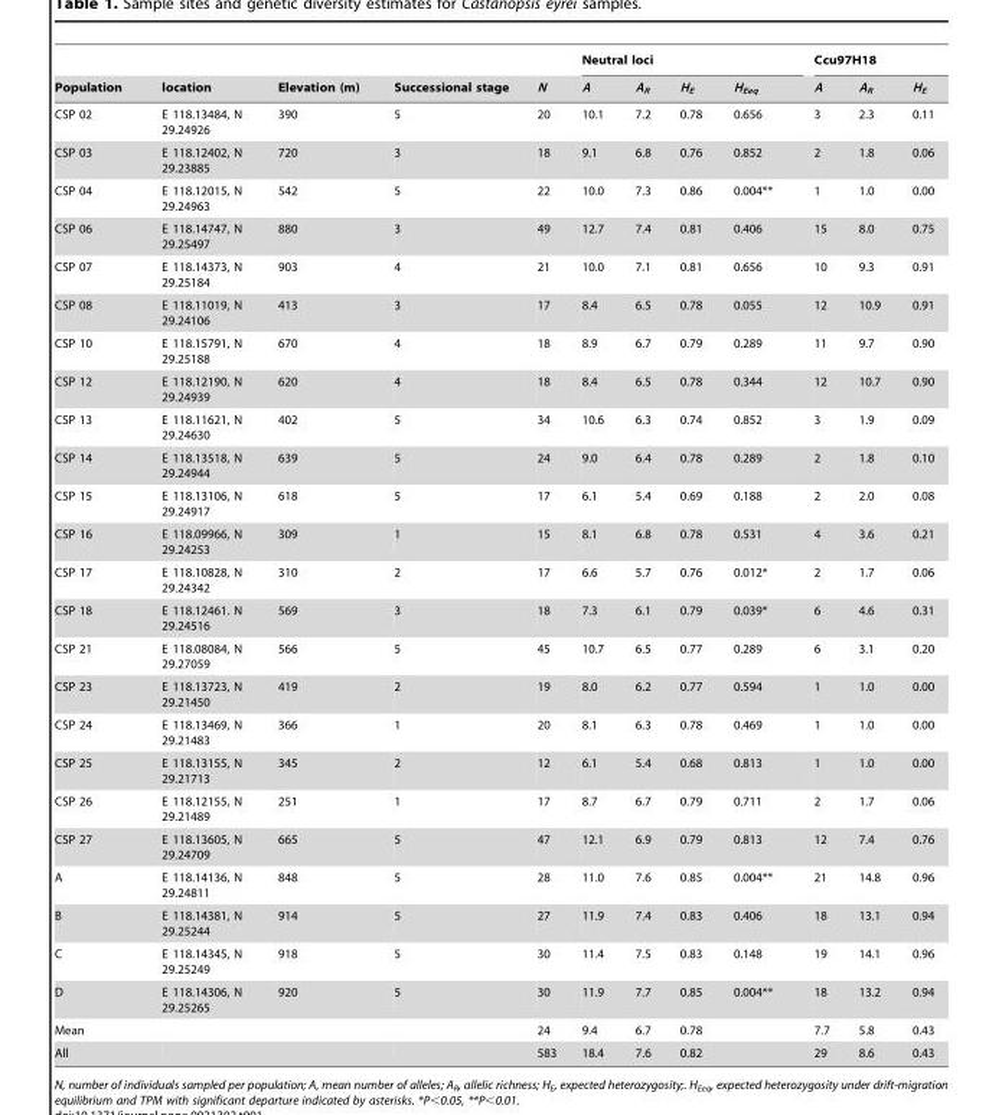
<table><thead><tr><td rowspan="2">Population</td><td rowspan="2">location</td><td rowspan="2">Elevation (m)</td><td rowspan="2">Successional stage</td><td rowspan="2">N</td><td colspan="4">Neutral loci</td><td colspan="3">Ccu97H18</td></tr><tr><td>A</td><td>A<sub>R</sub></td><td>H<sub>E</sub></td><td>H<sub>Eeq</sub></td><td>A</td><td>A<sub>R</sub></td><td>H<sub>E</sub></td></tr></thead><tbody><tr><td>CSP 02</td><td>E 118.13484, N 29.24926</td><td>390</td><td>5</td><td>20</td><td>10.1</td><td>7.2</td><td>0.78</td><td>0.656</td><td>3</td><td>2.3</td><td>0.11</td></tr><tr><td>CSP 03</td><td>E 118.12402, N 29.23885</td><td>720</td><td>3</td><td>18</td><td>9.1</td><td>6.8</td><td>0.76</td><td>0.852</td><td>2</td><td>1.8</td><td>0.06</td></tr><tr><td>CSP 04</td><td>E 118.12015, N 29.24963</td><td>542</td><td>5</td><td>22</td><td>10.0</td><td>7.3</td><td>0.86</td><td>0.004**</td><td>1</td><td>1.0</td><td>0.00</td></tr><tr><td>CSP 06</td><td>E 118.14747, N 29.25497</td><td>880</td><td>3</td><td>49</td><td>12.7</td><td>7.4</td><td>0.81</td><td>0.406</td><td>15</td><td>8.0</td><td>0.75</td></tr><tr><td>CSP 07</td><td>E 118.14373, N 29.25184</td><td>903</td><td>4</td><td>21</td><td>10.0</td><td>7.1</td><td>0.81</td><td>0.656</td><td>10</td><td>9.3</td><td>0.91</td></tr><tr><td>CSP 08</td><td>E 118.11019, N 29.24106</td><td>413</td><td>3</td><td>17</td><td>8.4</td><td>6.5</td><td>0.78</td><td>0.055</td><td>12</td><td>10.9</td><td>0.91</td></tr><tr><td>CSP 10</td><td>E 118.15791, N 29.25188</td><td>670</td><td>4</td><td>18</td><td>8.9</td><td>6.7</td><td>0.79</td><td>0.289</td><td>11</td><td>9.7</td><td>0.90</td></tr><tr><td>CSP 12</td><td>E 118.12190, N 29.24939</td><td>620</td><td>4</td><td>18</td><td>8.4</td><td>6.5</td><td>0.78</td><td>0.344</td><td>12</td><td>10.7</td><td>0.90</td></tr><tr><td>CSP 13</td><td>E 118.11621, N 29.24630</td><td>402</td><td>5</td><td>34</td><td>10.6</td><td>6.3</td><td>0.74</td><td>0.852</td><td>3</td><td>1.9</td><td>0.09</td></tr><tr><td>CSP 14</td><td>E 118.13518, N 29.24944</td><td>639</td><td>5</td><td>24</td><td>9.0</td><td>6.4</td><td>0.78</td><td>0.289</td><td>2</td><td>1.8</td><td>0.10</td></tr><tr><td>CSP 15</td><td>E 118.13106, N 29.24917</td><td>618</td><td>5</td><td>17</td><td>6.1</td><td>5.4</td><td>0.69</td><td>0.188</td><td>2</td><td>2.0</td><td>0.08</td></tr><tr><td>CSP 16</td><td>E 118.09966, N 29.24253</td><td>309</td><td>1</td><td>15</td><td>8.1</td><td>6.8</td><td>0.78</td><td>0.531</td><td>4</td><td>3.6</td><td>0.21</td></tr><tr><td>CSP 17</td><td>E 118.10828, N 29.24342</td><td>310</td><td>2</td><td>17</td><td>6.6</td><td>5.7</td><td>0.76</td><td>0.012*</td><td>2</td><td>1.7</td><td>0.06</td></tr><tr><td>CSP 18</td><td>E 118.12461. N 29.24516</td><td>569</td><td>3</td><td>18</td><td>7.3</td><td>6.1</td><td>0.79</td><td>0.039*</td><td>6</td><td>4.6</td><td>0.31</td></tr><tr><td>CSP 21</td><td>E 118.08084, N 29.27059</td><td>566</td><td>5</td><td>45</td><td>10.7</td><td>6.5</td><td>0.77</td><td>0.289</td><td>6</td><td>3.1</td><td>0.20</td></tr><tr><td>CSP 23</td><td>E 118.13723, N 29.21450</td><td>419</td><td>2</td><td>19</td><td>8.0</td><td>6.2</td><td>0.77</td><td>0.594</td><td>1</td><td>1.0</td><td>0.00</td></tr><tr><td>CSP 24</td><td>E 118.13469, N 29.21483</td><td>366</td><td>1</td><td>20</td><td>8.1</td><td>6.3</td><td>0.78</td><td>0.469</td><td>1</td><td>1.0</td><td>0.00</td></tr><tr><td>CSP 25</td><td>E 118.13155, N 29.21713</td><td>345</td><td>2</td><td>12</td><td>6.1</td><td>5.4</td><td>0.68</td><td>0.813</td><td>1</td><td>1.0</td><td>0.00</td></tr><tr><td>CSP 26</td><td>E 118.12155, N 29.21489</td><td>251</td><td>1</td><td>17</td><td>8.7</td><td>6.7</td><td>0.79</td><td>0.711</td><td>2</td><td>1.7</td><td>0.06</td></tr><tr><td>CSP 27</td><td>E 118.13605, N 29.24709</td><td>665</td><td>5</td><td>47</td><td>12.1</td><td>6.9</td><td>0.79</td><td>0.813</td><td>12</td><td>7.4</td><td>0.76</td></tr><tr><td>A</td><td>E 118.14136, N 29.24811</td><td>848</td><td>5</td><td>28</td><td>11.0</td><td>7.6</td><td>0.85</td><td>0.004**</td><td>21</td><td>14.8</td><td>0.96</td></tr><tr><td>B</td><td>E 118.14381, N 29.25244</td><td>914</td><td>5</td><td>27</td><td>11.9</td><td>7.4</td><td>0.83</td><td>0.406</td><td>18</td><td>13.1</td><td>0.94</td></tr><tr><td>C</td><td>E 118.14345, N 29.25249</td><td>918</td><td>5</td><td>30</td><td>11.4</td><td>7.5</td><td>0.83</td><td>0.148</td><td>19</td><td>14.1</td><td>0.96</td></tr><tr><td>D</td><td>E 118.14306, N 29.25265</td><td>920</td><td>5</td><td>30</td><td>11.9</td><td>7.7</td><td>0.85</td><td>0.004**</td><td>18</td><td>13.2</td><td>0.94</td></tr><tr><td>Mean</td><td></td><td></td><td></td><td>24</td><td>9.4</td><td>6.7</td><td>0.78</td><td></td><td>7.7</td><td>5.8</td><td>0.43</td></tr><tr><td>All</td><td></td><td></td><td></td><td>583</td><td>18.4</td><td>7.6</td><td>0.82</td><td></td><td>29</td><td>8.6</td><td>0.43</td></tr></tbody></table>